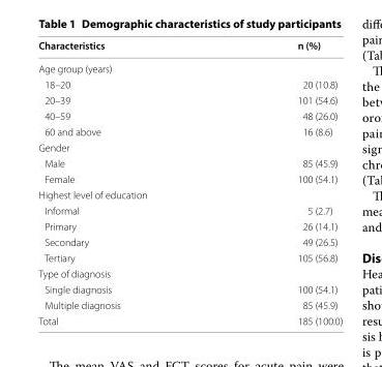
<table><thead><tr><td>Characteristics</td><td>n (%)</td></tr></thead><tbody><tr><td colspan="2">Age group (years)</td></tr><tr><td>18–20</td><td>20 (10.8)</td></tr><tr><td>20–39</td><td>101 (54.6)</td></tr><tr><td>40–59</td><td>48 (26.0)</td></tr><tr><td>60 and above</td><td>16 (8.6)</td></tr><tr><td colspan="2">Gender</td></tr><tr><td>Male</td><td>85 (45.9)</td></tr><tr><td>Female</td><td>100 (54.1)</td></tr><tr><td colspan="2">Highest level of education</td></tr><tr><td>Informal</td><td>5 (2.7)</td></tr><tr><td>Primary</td><td>26 (14.1)</td></tr><tr><td>Secondary</td><td>49 (26.5)</td></tr><tr><td>Tertiary</td><td>105 (56.8)</td></tr><tr><td colspan="2">Type of diagnosis</td></tr><tr><td>Single diagnosis</td><td>100 (54.1)</td></tr><tr><td>Multiple diagnosis</td><td>85 (45.9)</td></tr><tr><td>Total</td><td>185 (100.0)</td></tr></tbody></table>